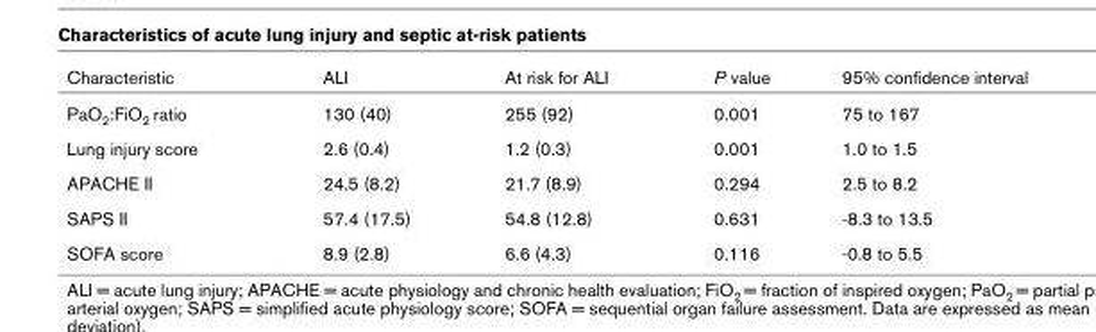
<table><thead><tr><td>Characteristic</td><td>ALI</td><td>At risk for ALI</td><td>P value</td><td>95% confidence interval</td></tr></thead><tbody><tr><td>PaO<sub>2</sub>:FiO<sub>2</sub> ratio</td><td>130 (40)</td><td>255 (92)</td><td>0.001</td><td>75 to 167</td></tr><tr><td>Lung injury score</td><td>2.6 (0.4)</td><td>1.2 (0.3)</td><td>0.001</td><td>1.0 to 1.5</td></tr><tr><td>APACHE II</td><td>24.5 (8.2)</td><td>21.7 (8.9)</td><td>0.294</td><td>2.5 to 8.2</td></tr><tr><td>SAPS II</td><td>57.4 (17.5)</td><td>54.8 (12.8)</td><td>0.631</td><td>-8.3 to 13.5</td></tr><tr><td>SOFA score</td><td>8.9 (2.8)</td><td>6.6 (4.3)</td><td>0.116</td><td>-0.8 to 5.5</td></tr></tbody></table>